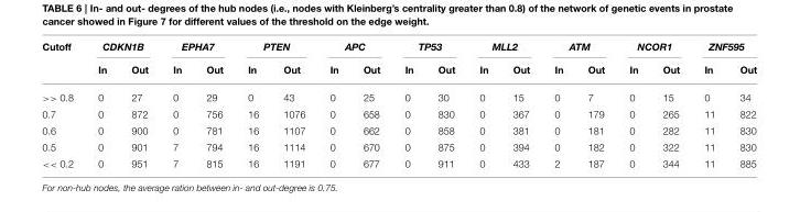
<table><thead><tr><td rowspan="2">Cutoff</td><td colspan="2">CDKN1B</td><td colspan="2">EPHA7</td><td colspan="2">PTEN</td><td colspan="2">APC</td><td colspan="2">TP53</td><td colspan="2">MLL2</td><td colspan="2">ATM</td><td colspan="2">NCOR1</td><td colspan="2">ZNF595</td></tr><tr><td>In</td><td>Out</td><td>In</td><td>Out</td><td>In</td><td>Out</td><td>In</td><td>Out</td><td>In</td><td>Out</td><td>In</td><td>Out</td><td>In</td><td>Out</td><td>In</td><td>Out</td><td>In</td><td>Out</td></tr></thead><tbody><tr><td>&gt;&gt; 0.8</td><td>0</td><td>27</td><td>0</td><td>29</td><td>0</td><td>43</td><td>0</td><td>25</td><td>0</td><td>30</td><td>0</td><td>15</td><td>0</td><td>7</td><td>0</td><td>15</td><td>0</td><td>34</td></tr><tr><td>0.7</td><td>0</td><td>872</td><td>0</td><td>756</td><td>16</td><td>1076</td><td>0</td><td>658</td><td>0</td><td>830</td><td>0</td><td>367</td><td>0</td><td>179</td><td>0</td><td>265</td><td>11</td><td>822</td></tr><tr><td>0.6</td><td>0</td><td>900</td><td>0</td><td>781</td><td>16</td><td>1107</td><td>0</td><td>662</td><td>0</td><td>858</td><td>0</td><td>381</td><td>0</td><td>181</td><td>0</td><td>282</td><td>11</td><td>830</td></tr><tr><td>0.5</td><td>0</td><td>901</td><td>7</td><td>794</td><td>16</td><td>1114</td><td>0</td><td>670</td><td>0</td><td>875</td><td>0</td><td>394</td><td>0</td><td>182</td><td>0</td><td>322</td><td>11</td><td>830</td></tr><tr><td>&lt;&lt; 0.2</td><td>0</td><td>951</td><td>7</td><td>815</td><td>16</td><td>1191</td><td>0</td><td>677</td><td>0</td><td>911</td><td>0</td><td>433</td><td>2</td><td>187</td><td>0</td><td>344</td><td>11</td><td>885</td></tr></tbody></table>